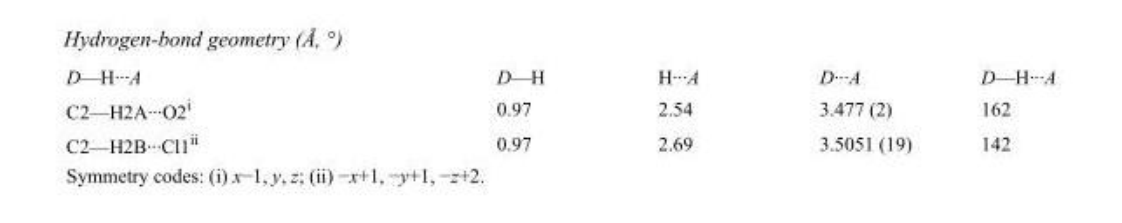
<table><tbody><tr><td>D—H···A</td><td>D—H</td><td>H···A</td><td>D···A</td><td>D—H···A</td></tr><tr><td>C2—H2A···O2<sup>i</sup></td><td>0.97</td><td>2.54</td><td>3.477 (2)</td><td>162</td></tr><tr><td>C2—H2B···Cl1<sup>ii</sup></td><td>0.97</td><td>2.69</td><td>3.5051 (19)</td><td>142</td></tr></tbody></table>